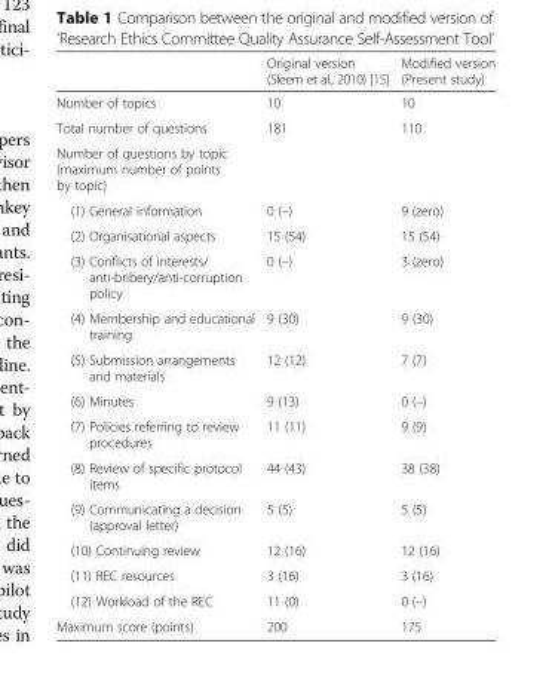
<table><thead><tr><td></td><td>Original version (Sleem et al., 2010) [15]</td><td>Modified version (Present study)</td></tr></thead><tbody><tr><td>Number of topics</td><td>10</td><td>10</td></tr><tr><td>Total number of questions</td><td>181</td><td>110</td></tr><tr><td colspan="3">Number of questions by topic (maximum number of points by topic)</td></tr><tr><td>(1) General information</td><td>0 (–)</td><td>9 (zero)</td></tr><tr><td>(2) Organisational aspects</td><td>15 (54)</td><td>15 (54)</td></tr><tr><td>(3) Conflicts of interests/ anti-bribery/anti-corruption policy</td><td>0 (–)</td><td>3 (zero)</td></tr><tr><td>(4) Membership and educational training</td><td>9 (30)</td><td>9 (30)</td></tr><tr><td>(5) Submission arrangements and materials</td><td>12 (12)</td><td>7 (7)</td></tr><tr><td>(6) Minutes</td><td>9 (13)</td><td>0 (–)</td></tr><tr><td>(7) Policies referring to review procedures</td><td>11 (11)</td><td>9 (9)</td></tr><tr><td>(8) Review of specific protocol items</td><td>44 (43)</td><td>38 (38)</td></tr><tr><td>(9) Communicating a decision (approval letter)</td><td>5 (5)</td><td>5 (5)</td></tr><tr><td>(10) Continuing review</td><td>12 (16)</td><td>12 (16)</td></tr><tr><td>(11) REC resources</td><td>3 (16)</td><td>3 (16)</td></tr><tr><td>(12) Workload of the REC</td><td>11 (0)</td><td>0 (–)</td></tr><tr><td>Maximum score (points)</td><td>200</td><td>175</td></tr></tbody></table>